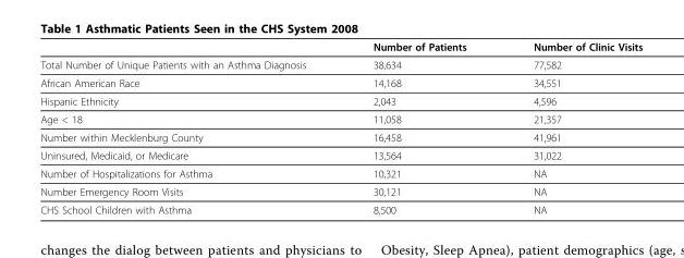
<table><thead><tr><td></td><td>Number of Patients</td><td>Number of Clinic Visits</td></tr></thead><tbody><tr><td>Total Number of Unique Patients with an Asthma Diagnosis</td><td>38,634</td><td>77,582</td></tr><tr><td>African American Race</td><td>14,168</td><td>34,551</td></tr><tr><td>Hispanic Ethnicity</td><td>2,043</td><td>4,596</td></tr><tr><td>Age &lt; 18</td><td>11,058</td><td>21,357</td></tr><tr><td>Number within Mecklenburg County</td><td>16,458</td><td>41,961</td></tr><tr><td>Uninsured, Medicaid, or Medicare</td><td>13,564</td><td>31,022</td></tr><tr><td>Number of Hospitalizations for Asthma</td><td>10,321</td><td>NA</td></tr><tr><td>Number Emergency Room Visits</td><td>30,121</td><td>NA</td></tr><tr><td>CHS School Children with Asthma</td><td>8,500</td><td>NA</td></tr></tbody></table>